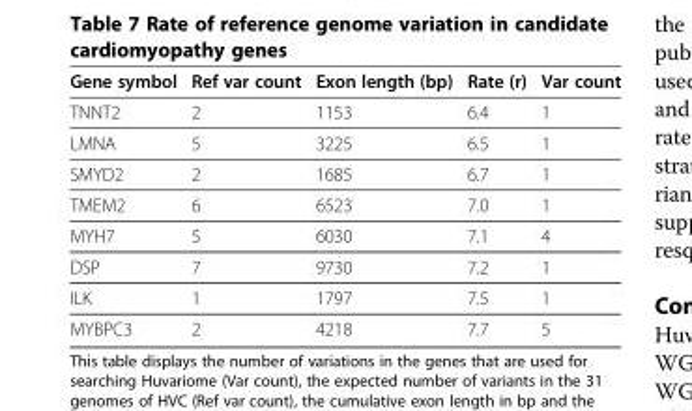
<table><thead><tr><td>Gene symbol</td><td>Ref var count</td><td>Exon length (bp)</td><td>Rate (r)</td><td>Var count</td></tr></thead><tbody><tr><td>TNNT2</td><td>2</td><td>1153</td><td>6.4</td><td>1</td></tr><tr><td>LMNA</td><td>5</td><td>3225</td><td>6.5</td><td>1</td></tr><tr><td>SMYD2</td><td>2</td><td>1685</td><td>6.7</td><td>1</td></tr><tr><td>TMEM2</td><td>6</td><td>6523</td><td>7.0</td><td>1</td></tr><tr><td>MYH7</td><td>5</td><td>6030</td><td>7.1</td><td>4</td></tr><tr><td>DSP</td><td>7</td><td>9730</td><td>7.2</td><td>1</td></tr><tr><td>ILK</td><td>1</td><td>1797</td><td>7.5</td><td>1</td></tr><tr><td>MYBPC3</td><td>2</td><td>4218</td><td>7.7</td><td>5</td></tr></tbody></table>